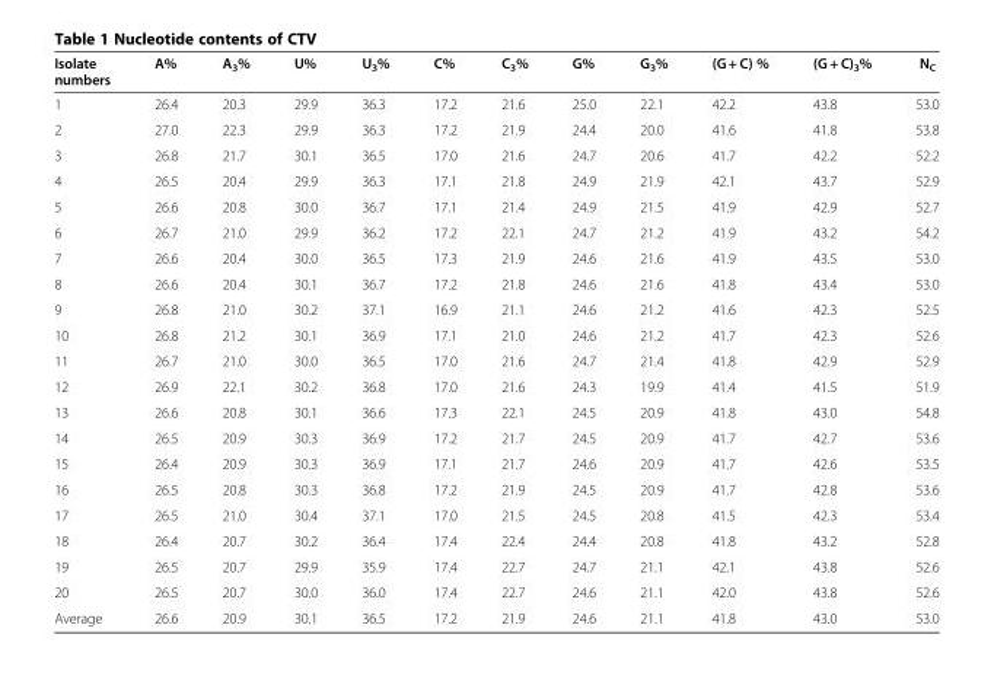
<table><thead><tr><td>Isolate numbers</td><td>A%</td><td>A<sub>3</sub>%</td><td>U%</td><td>U<sub>3</sub>%</td><td>C%</td><td>C<sub>3</sub>%</td><td>G%</td><td>G<sub>3</sub>%</td><td>(G + C) %</td><td>(G + C)<sub>3</sub>%</td><td>N<sub>C</sub></td></tr></thead><tbody><tr><td>1</td><td>26.4</td><td>20.3</td><td>29.9</td><td>36.3</td><td>17.2</td><td>21.6</td><td>25.0</td><td>22.1</td><td>42.2</td><td>43.8</td><td>53.0</td></tr><tr><td>2</td><td>27.0</td><td>22.3</td><td>29.9</td><td>36.3</td><td>17.2</td><td>21.9</td><td>24.4</td><td>20.0</td><td>41.6</td><td>41.8</td><td>53.8</td></tr><tr><td>3</td><td>26.8</td><td>21.7</td><td>30.1</td><td>36.5</td><td>17.0</td><td>21.6</td><td>24.7</td><td>20.6</td><td>41.7</td><td>42.2</td><td>52.2</td></tr><tr><td>4</td><td>26.5</td><td>20.4</td><td>29.9</td><td>36.3</td><td>17.1</td><td>21.8</td><td>24.9</td><td>21.9</td><td>42.1</td><td>43.7</td><td>52.9</td></tr><tr><td>5</td><td>26.6</td><td>20.8</td><td>30.0</td><td>36.7</td><td>17.1</td><td>21.4</td><td>24.9</td><td>21.5</td><td>41.9</td><td>42.9</td><td>52.7</td></tr><tr><td>6</td><td>26.7</td><td>21.0</td><td>29.9</td><td>36.2</td><td>17.2</td><td>22.1</td><td>24.7</td><td>21.2</td><td>41.9</td><td>43.2</td><td>54.2</td></tr><tr><td>7</td><td>26.6</td><td>20.4</td><td>30.0</td><td>36.5</td><td>17.3</td><td>21.9</td><td>24.6</td><td>21.6</td><td>41.9</td><td>43.5</td><td>53.0</td></tr><tr><td>8</td><td>26.6</td><td>20.4</td><td>30.1</td><td>36.7</td><td>17.2</td><td>21.8</td><td>24.6</td><td>21.6</td><td>41.8</td><td>43.4</td><td>53.0</td></tr><tr><td>9</td><td>26.8</td><td>21.0</td><td>30.2</td><td>37.1</td><td>16.9</td><td>21.1</td><td>24.6</td><td>21.2</td><td>41.6</td><td>42.3</td><td>52.5</td></tr><tr><td>10</td><td>26.8</td><td>21.2</td><td>30.1</td><td>36.9</td><td>17.1</td><td>21.0</td><td>24.6</td><td>21.2</td><td>41.7</td><td>42.3</td><td>52.6</td></tr><tr><td>11</td><td>26.7</td><td>21.0</td><td>30.0</td><td>36.5</td><td>17.0</td><td>21.6</td><td>24.7</td><td>21.4</td><td>41.8</td><td>42.9</td><td>52.9</td></tr><tr><td>12</td><td>26.9</td><td>22.1</td><td>30.2</td><td>36.8</td><td>17.0</td><td>21.6</td><td>24.3</td><td>19.9</td><td>41.4</td><td>41.5</td><td>51.9</td></tr><tr><td>13</td><td>26.6</td><td>20.8</td><td>30.1</td><td>36.6</td><td>17.3</td><td>22.1</td><td>24.5</td><td>20.9</td><td>41.8</td><td>43.0</td><td>54.8</td></tr><tr><td>14</td><td>26.5</td><td>20.9</td><td>30.3</td><td>36.9</td><td>17.2</td><td>21.7</td><td>24.5</td><td>20.9</td><td>41.7</td><td>42.7</td><td>53.6</td></tr><tr><td>15</td><td>26.4</td><td>20.9</td><td>30.3</td><td>36.9</td><td>17.1</td><td>21.7</td><td>24.6</td><td>20.9</td><td>41.7</td><td>42.6</td><td>53.5</td></tr><tr><td>16</td><td>26.5</td><td>20.8</td><td>30.3</td><td>36.8</td><td>17.2</td><td>21.9</td><td>24.5</td><td>20.9</td><td>41.7</td><td>42.8</td><td>53.6</td></tr><tr><td>17</td><td>26.5</td><td>21.0</td><td>30.4</td><td>37.1</td><td>17.0</td><td>21.5</td><td>24.5</td><td>20.8</td><td>41.5</td><td>42.3</td><td>53.4</td></tr><tr><td>18</td><td>26.4</td><td>20.7</td><td>30.2</td><td>36.4</td><td>17.4</td><td>22.4</td><td>24.4</td><td>20.8</td><td>41.8</td><td>43.2</td><td>52.8</td></tr><tr><td>19</td><td>26.5</td><td>20.7</td><td>29.9</td><td>35.9</td><td>17.4</td><td>22.7</td><td>24.7</td><td>21.1</td><td>42.1</td><td>43.8</td><td>52.6</td></tr><tr><td>20</td><td>26.5</td><td>20.7</td><td>30.0</td><td>36.0</td><td>17.4</td><td>22.7</td><td>24.6</td><td>21.1</td><td>42.0</td><td>43.8</td><td>52.6</td></tr><tr><td>Average</td><td>26.6</td><td>20.9</td><td>30.1</td><td>36.5</td><td>17.2</td><td>21.9</td><td>24.6</td><td>21.1</td><td>41.8</td><td>43.0</td><td>53.0</td></tr></tbody></table>